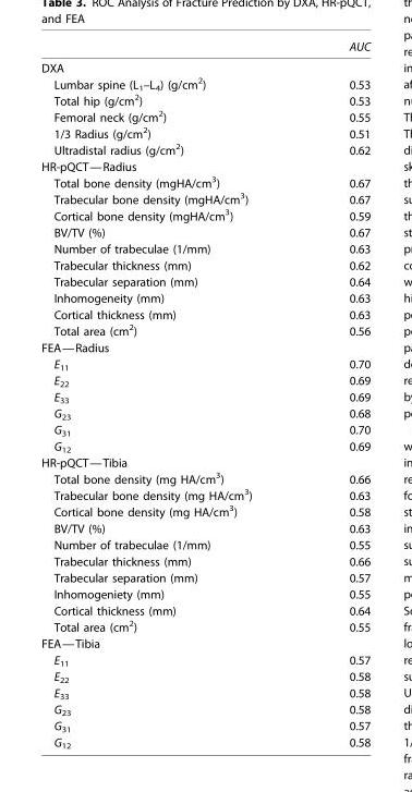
<table><thead><tr><td></td><td>AUC</td></tr></thead><tbody><tr><td colspan="2">DXA</td></tr><tr><td>Lumbar spine (L<sub>1</sub>–L<sub>4</sub>) (g/cm<sup>2</sup>)</td><td>0.53</td></tr><tr><td>Total hip (g/cm<sup>2</sup>)</td><td>0.53</td></tr><tr><td>Femoral neck (g/cm<sup>2</sup>)</td><td>0.55</td></tr><tr><td>1/3 Radius (g/cm<sup>2</sup>)</td><td>0.51</td></tr><tr><td>Ultradistal radius (g/cm<sup>2</sup>)</td><td>0.62</td></tr><tr><td colspan="2">HR-pQCT—Radius</td></tr><tr><td>Total bone density (mgHA/cm<sup>3</sup>)</td><td>0.67</td></tr><tr><td>Trabecular bone density (mgHA/cm<sup>3</sup>)</td><td>0.67</td></tr><tr><td>Cortical bone density (mgHA/cm<sup>3</sup>)</td><td>0.59</td></tr><tr><td>BV/TV (%)</td><td>0.67</td></tr><tr><td>Number of trabeculae (1/mm)</td><td>0.63</td></tr><tr><td>Trabecular thickness (mm)</td><td>0.62</td></tr><tr><td>Trabecular separation (mm)</td><td>0.64</td></tr><tr><td>Inhomogeneity (mm)</td><td>0.63</td></tr><tr><td>Cortical thickness (mm)</td><td>0.63</td></tr><tr><td>Total area (cm<sup>2</sup>)</td><td>0.56</td></tr><tr><td colspan="2">FEA—Radius</td></tr><tr><td>E<sub>11</sub></td><td>0.70</td></tr><tr><td>E<sub>22</sub></td><td>0.69</td></tr><tr><td>E<sub>33</sub></td><td>0.69</td></tr><tr><td>G<sub>23</sub></td><td>0.68</td></tr><tr><td>G<sub>31</sub></td><td>0.70</td></tr><tr><td>G<sub>12</sub></td><td>0.69</td></tr><tr><td colspan="2">HR-pQCT—Tibia</td></tr><tr><td>Total bone density (mg HA/cm<sup>3</sup>)</td><td>0.66</td></tr><tr><td>Trabecular bone density (mg HA/cm<sup>3</sup>)</td><td>0.63</td></tr><tr><td>Cortical bone density (mg HA/cm<sup>3</sup>)</td><td>0.58</td></tr><tr><td>BV/TV (%)</td><td>0.63</td></tr><tr><td>Number of trabeculae (1/mm)</td><td>0.55</td></tr><tr><td>Trabecular thickness (mm)</td><td>0.66</td></tr><tr><td>Trabecular separation (mm)</td><td>0.57</td></tr><tr><td>Inhomogeniety (mm)</td><td>0.55</td></tr><tr><td>Cortical thickness (mm)</td><td>0.64</td></tr><tr><td>Total area (cm<sup>2</sup>)</td><td>0.55</td></tr><tr><td colspan="2">FEA—Tibia</td></tr><tr><td>E<sub>11</sub></td><td>0.57</td></tr><tr><td>E<sub>22</sub></td><td>0.58</td></tr><tr><td>E<sub>33</sub></td><td>0.58</td></tr><tr><td>G<sub>23</sub></td><td>0.58</td></tr><tr><td>G<sub>31</sub></td><td>0.57</td></tr><tr><td>G<sub>12</sub></td><td>0.58</td></tr></tbody></table>